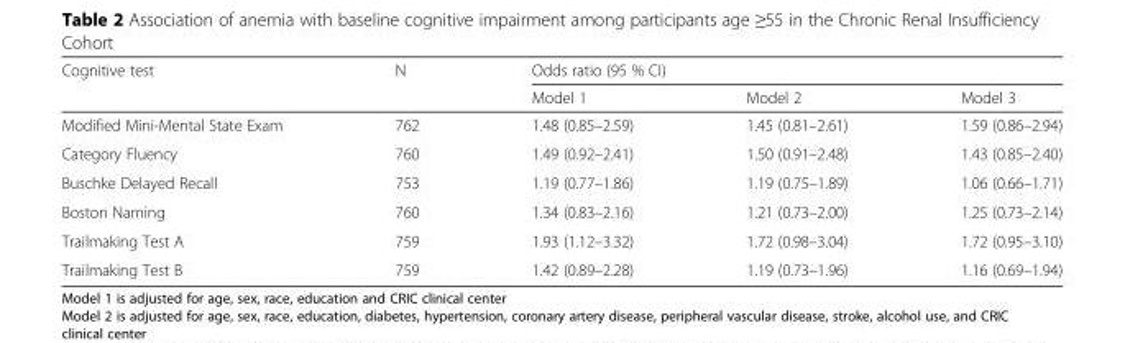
<table><thead><tr><td rowspan="2">Cognitive test</td><td rowspan="2">N</td><td colspan="3">Odds ratio (95 % CI)</td></tr><tr><td>Model 1</td><td>Model 2</td><td>Model 3</td></tr></thead><tbody><tr><td>Modified Mini-Mental State Exam</td><td>762</td><td>1.48 (0.85–2.59)</td><td>1.45 (0.81–2.61)</td><td>1.59 (0.86–2.94)</td></tr><tr><td>Category Fluency</td><td>760</td><td>1.49 (0.92–2.41)</td><td>1.50 (0.91–2.48)</td><td>1.43 (0.85–2.40)</td></tr><tr><td>Buschke Delayed Recall</td><td>753</td><td>1.19 (0.77–1.86)</td><td>1.19 (0.75–1.89)</td><td>1.06 (0.66–1.71)</td></tr><tr><td>Boston Naming</td><td>760</td><td>1.34 (0.83–2.16)</td><td>1.21 (0.73–2.00)</td><td>1.25 (0.73–2.14)</td></tr><tr><td>Trailmaking Test A</td><td>759</td><td>1.93 (1.12–3.32)</td><td>1.72 (0.98–3.04)</td><td>1.72 (0.95–3.10)</td></tr><tr><td>Trailmaking Test B</td><td>759</td><td>1.42 (0.89–2.28)</td><td>1.19 (0.73–1.96)</td><td>1.16 (0.69–1.94)</td></tr></tbody></table>